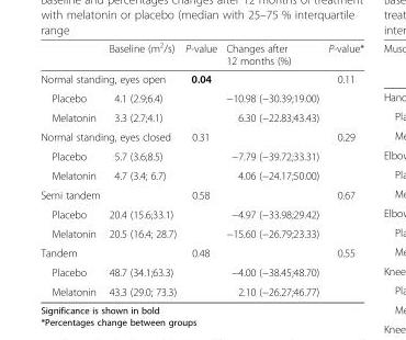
<table><thead><tr><td></td><td>Baseline (m<sup>2</sup>/s)</td><td>P-value</td><td>Changes after 12 months (%)</td><td>P-value*</td></tr></thead><tbody><tr><td colspan="2">Normal standing, eyes open</td><td>0.04</td><td></td><td>0.11</td></tr><tr><td>Placebo</td><td>4.1 (2.9;6.4)</td><td></td><td>−10.98 (−30.39;19.00)</td><td></td></tr><tr><td>Melatonin</td><td>3.3 (2.7;4.1)</td><td></td><td>6.30 (−22.83;43.43)</td><td></td></tr><tr><td colspan="2">Normal standing, eyes closed</td><td>0.31</td><td></td><td>0.29</td></tr><tr><td>Placebo</td><td>5.7 (3.6;8.5)</td><td></td><td>−7.79 (−39.72;33.31)</td><td></td></tr><tr><td>Melatonin</td><td>4.7 (3.4; 6.7)</td><td></td><td>4.06 (−24.17;50.00)</td><td></td></tr><tr><td>Semi tandem</td><td></td><td>0.58</td><td></td><td>0.67</td></tr><tr><td>Placebo</td><td>20.4 (15.6;33.1)</td><td></td><td>−4.97 (−33.98;29.42)</td><td></td></tr><tr><td>Melatonin</td><td>20.5 (16.4; 28.7)</td><td></td><td>−15.60 (−26.79;23.33)</td><td></td></tr><tr><td>Tandem</td><td></td><td>0.48</td><td></td><td>0.55</td></tr><tr><td>Placebo</td><td>48.7 (34.1;63.3)</td><td></td><td>−4.00 (−38.45;48.70)</td><td></td></tr><tr><td>Melatonin</td><td>43.3 (29.0; 73.3)</td><td></td><td>2.10 (−26.27;46.77)</td><td></td></tr></tbody></table>